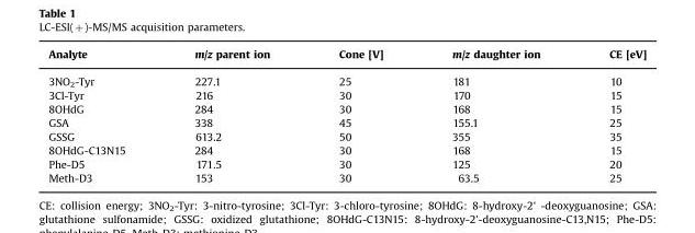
<table><thead><tr><td>Analyte</td><td>m/z parent ion</td><td>Cone [V]</td><td>m/z daughter ion</td><td>CE [eV]</td></tr></thead><tbody><tr><td>3NO<sub>2</sub>-Tyr</td><td>227.1</td><td>25</td><td>181</td><td>10</td></tr><tr><td>3Cl-Tyr</td><td>216</td><td>30</td><td>170</td><td>15</td></tr><tr><td>8OHdG</td><td>284</td><td>30</td><td>168</td><td>15</td></tr><tr><td>GSA</td><td>338</td><td>45</td><td>155.1</td><td>25</td></tr><tr><td>GSSG</td><td>613.2</td><td>50</td><td>355</td><td>35</td></tr><tr><td>8OHdG-C13N15</td><td>284</td><td>30</td><td>168</td><td>15</td></tr><tr><td>Phe-D5</td><td>171.5</td><td>30</td><td>125</td><td>20</td></tr><tr><td>Meth-D3</td><td>153</td><td>30</td><td>63.5</td><td>25</td></tr></tbody></table>